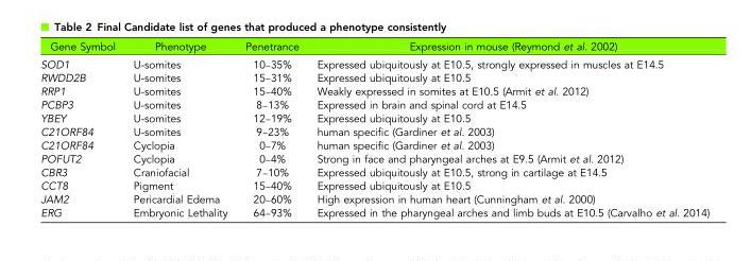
<table><thead><tr><td>Gene Symbol</td><td>Phenotype</td><td>Penetrance</td><td>Expression in mouse (Reymond et al. 2002)</td></tr></thead><tbody><tr><td>SOD1</td><td>U-somites</td><td>10–35%</td><td>Expressed ubiquitously at E10.5, strongly expressed in muscles at E14.5</td></tr><tr><td>RWDD2B</td><td>U-somites</td><td>15–31%</td><td>Expressed ubiquitously at E10.5</td></tr><tr><td>RRP1</td><td>U-somites</td><td>15–40%</td><td>Weakly expressed in somites at E10.5 (Armit et al. 2012)</td></tr><tr><td>PCBP3</td><td>U-somites</td><td>8–13%</td><td>Expressed in brain and spinal cord at E14.5</td></tr><tr><td>YBEY</td><td>U-somites</td><td>12–19%</td><td>Expressed ubiquitously at E10.5</td></tr><tr><td>C21ORF84</td><td>U-somites</td><td>9–23%</td><td>human specific (Gardiner et al. 2003)</td></tr><tr><td>C21ORF84</td><td>Cyclopia</td><td>0–7%</td><td>human specific (Gardiner et al. 2003)</td></tr><tr><td>POFUT2</td><td>Cyclopia</td><td>0–4%</td><td>Strong in face and pharyngeal arches at E9.5 (Armit et al. 2012)</td></tr><tr><td>CBR3</td><td>Craniofacial</td><td>7–10%</td><td>Expressed ubiquitously at E10.5, strong in cartilage at E14.5</td></tr><tr><td>CCT8</td><td>Pigment</td><td>15–40%</td><td>Expressed ubiquitously at E10.5</td></tr><tr><td>JAM2</td><td>Pericardial Edema</td><td>20–60%</td><td>High expression in human heart (Cunningham et al. 2000)</td></tr><tr><td>ERG</td><td>Embryonic Lethality</td><td>64–93%</td><td>Expressed in the pharyngeal arches and limb buds at E10.5 (Carvalho et al. 2014)</td></tr></tbody></table>